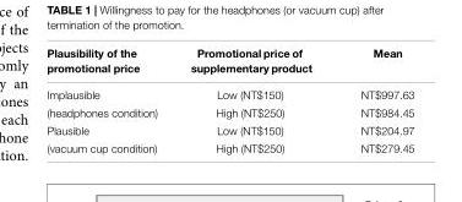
<table><thead><tr><td>Plausibility of the promotional price</td><td>Promotional price of supplementary product</td><td>Mean</td></tr></thead><tbody><tr><td>Implausible</td><td>Low (NT$150)</td><td>NT$997.63</td></tr><tr><td>(headphones condition)</td><td>High (NT$250)</td><td>NT$984.45</td></tr><tr><td>Plausible</td><td>Low (NT$150)</td><td>NT$204.97</td></tr><tr><td>(vacuum cup condition)</td><td>High (NT$250)</td><td>NT$279.45</td></tr></tbody></table>